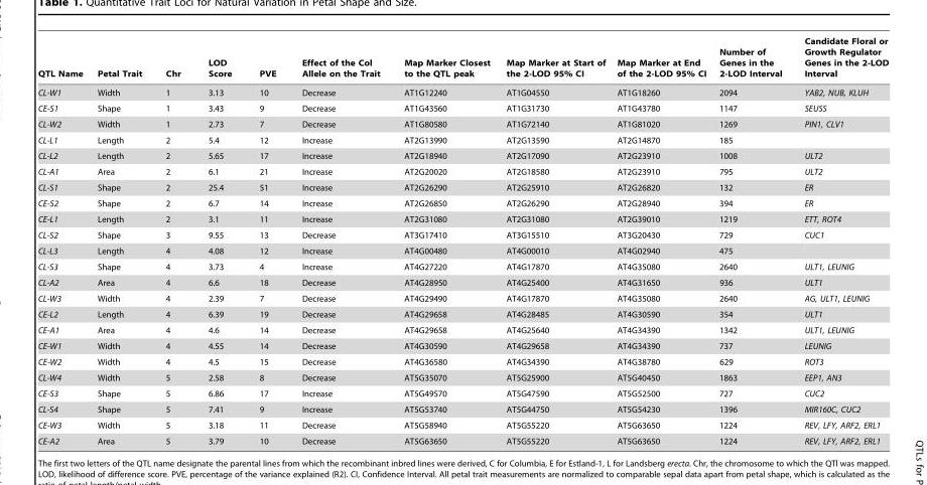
<table><thead><tr><td>QTL Name</td><td>Petal Trait</td><td>Chr</td><td>LOD Score</td><td>PVE</td><td>Effect of the Col Allele on the Trait</td><td>Map Marker Closest to the QTL peak</td><td>Map Marker at Start of the 2-LOD 95% CI</td><td>Map Marker at End of the 2-LOD 95% CI</td><td>Number of Genes in the 2-LOD Interval</td><td>Candidate Floral or Growth Regulator Genes in the 2-LOD Interval</td></tr></thead><tbody><tr><td>CL-W1</td><td>Width</td><td>1</td><td>3.13</td><td>10</td><td>Decrease</td><td>AT1G12240</td><td>AT1G04550</td><td>AT1G18260</td><td>2094</td><td>YAB2, NUB, KLUH</td></tr><tr><td>CE-S1</td><td>Shape</td><td>1</td><td>3.43</td><td>9</td><td>Decrease</td><td>AT1G43560</td><td>AT1G31730</td><td>AT1G43780</td><td>1147</td><td>SEUSS</td></tr><tr><td>CL-W2</td><td>Width</td><td>1</td><td>2.73</td><td>7</td><td>Decrease</td><td>AT1G80580</td><td>AT1G72140</td><td>AT1G81020</td><td>1269</td><td>PIN1, CLV1</td></tr><tr><td>CL-L1</td><td>Length</td><td>2</td><td>5.4</td><td>12</td><td>Increase</td><td>AT2G13990</td><td>AT2G13590</td><td>AT2G14870</td><td>185</td><td></td></tr><tr><td>CL-L2</td><td>Length</td><td>2</td><td>5.65</td><td>17</td><td>Increase</td><td>AT2G18940</td><td>AT2G17090</td><td>AT2G23910</td><td>1008</td><td>ULT2</td></tr><tr><td>CL-A1</td><td>Area</td><td>2</td><td>6.1</td><td>21</td><td>Increase</td><td>AT2G20020</td><td>AT2G18580</td><td>AT2G23910</td><td>795</td><td>ULT2</td></tr><tr><td>CL-S1</td><td>Shape</td><td>2</td><td>25.4</td><td>51</td><td>Increase</td><td>AT2G26290</td><td>AT2G25910</td><td>AT2G26820</td><td>132</td><td>ER</td></tr><tr><td>CE-S2</td><td>Shape</td><td>2</td><td>6.7</td><td>14</td><td>Increase</td><td>AT2G26850</td><td>AT2G26290</td><td>AT2G28940</td><td>394</td><td>ER</td></tr><tr><td>CE-L1</td><td>Length</td><td>2</td><td>3.1</td><td>11</td><td>Increase</td><td>AT2G31080</td><td>AT2G31080</td><td>AT2G39010</td><td>1219</td><td>ETT, ROT4</td></tr><tr><td>CL-S2</td><td>Shape</td><td>3</td><td>9.55</td><td>13</td><td>Decrease</td><td>AT3G17410</td><td>AT3G15510</td><td>AT3G20430</td><td>729</td><td>CUC1</td></tr><tr><td>CL-L3</td><td>Length</td><td>4</td><td>4.08</td><td>12</td><td>Increase</td><td>AT4G00480</td><td>AT4G00010</td><td>AT4G02940</td><td>475</td><td></td></tr><tr><td>CL-S3</td><td>Shape</td><td>4</td><td>3.73</td><td>4</td><td>Increase</td><td>AT4G27220</td><td>AT4G17870</td><td>AT4G35080</td><td>2640</td><td>ULT1, LEUNIG</td></tr><tr><td>CL-A2</td><td>Area</td><td>4</td><td>6.6</td><td>18</td><td>Decrease</td><td>AT4G28950</td><td>AT4G25400</td><td>AT4G31650</td><td>936</td><td>ULT1</td></tr><tr><td>CL-W3</td><td>Width</td><td>4</td><td>2.39</td><td>7</td><td>Decrease</td><td>AT4G29490</td><td>AT4G17870</td><td>AT4G35080</td><td>2640</td><td>AG, ULT1, LEUNIG</td></tr><tr><td>CE-L2</td><td>Length</td><td>4</td><td>6.39</td><td>19</td><td>Decrease</td><td>AT4G29658</td><td>AT4G28485</td><td>AT4G30590</td><td>354</td><td>ULT1</td></tr><tr><td>CE-A1</td><td>Area</td><td>4</td><td>4.6</td><td>14</td><td>Decrease</td><td>AT4G29658</td><td>AT4G25640</td><td>AT4G34390</td><td>1342</td><td>ULT1, LEUNIG</td></tr><tr><td>CE-W1</td><td>Width</td><td>4</td><td>4.55</td><td>14</td><td>Decrease</td><td>AT4G30590</td><td>AT4G29658</td><td>AT4G34390</td><td>737</td><td>LEUNIG</td></tr><tr><td>CE-W2</td><td>Width</td><td>4</td><td>4.5</td><td>15</td><td>Decrease</td><td>AT4G36580</td><td>AT4G34390</td><td>AT4G38780</td><td>629</td><td>ROT3</td></tr><tr><td>CL-W4</td><td>Width</td><td>5</td><td>2.58</td><td>8</td><td>Decrease</td><td>AT5G35070</td><td>AT5G25900</td><td>AT5G40450</td><td>1863</td><td>EEP1, AN3</td></tr><tr><td>CE-S3</td><td>Shape</td><td>5</td><td>6.86</td><td>17</td><td>Increase</td><td>AT5G49570</td><td>AT5G47590</td><td>AT5G52500</td><td>727</td><td>CUC2</td></tr><tr><td>CL-S4</td><td>Shape</td><td>5</td><td>7.41</td><td>9</td><td>Increase</td><td>AT5G53740</td><td>AT5G44750</td><td>AT5G54230</td><td>1396</td><td>MIR160C, CUC2</td></tr><tr><td>CE-W3</td><td>Width</td><td>5</td><td>3.18</td><td>11</td><td>Decrease</td><td>AT5G58940</td><td>AT5G55220</td><td>AT5G63650</td><td>1224</td><td>REV, LFY, ARF2, ERL1</td></tr><tr><td>CE-A2</td><td>Area</td><td>5</td><td>3.79</td><td>10</td><td>Decrease</td><td>AT5G63650</td><td>AT5G55220</td><td>AT5G63650</td><td>1224</td><td>REV, LFY, ARF2, ERL1</td></tr></tbody></table>